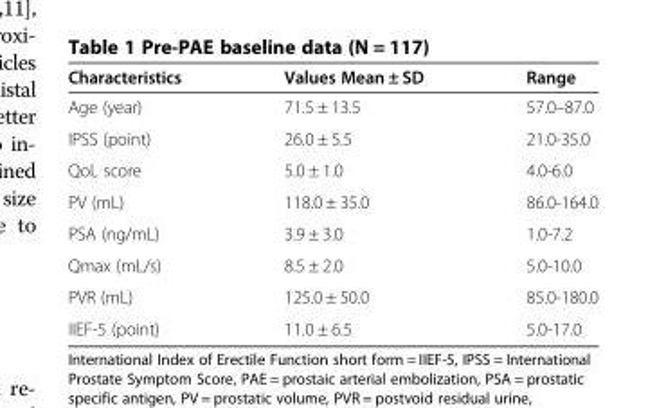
<table><thead><tr><td>Characteristics</td><td>Values Mean ± SD</td><td>Range</td></tr></thead><tbody><tr><td>Age (year)</td><td>71.5 ± 13.5</td><td>57.0–87.0</td></tr><tr><td>IPSS (point)</td><td>26.0 ± 5.5</td><td>21.0-35.0</td></tr><tr><td>QoL score</td><td>5.0 ± 1.0</td><td>4.0-6.0</td></tr><tr><td>PV (mL)</td><td>118.0 ± 35.0</td><td>86.0-164.0</td></tr><tr><td>PSA (ng/mL)</td><td>3.9 ± 3.0</td><td>1.0-7.2</td></tr><tr><td>Qmax (mL/s)</td><td>8.5 ± 2.0</td><td>5.0-10.0</td></tr><tr><td>PVR (mL)</td><td>125.0 ± 50.0</td><td>85.0-180.0</td></tr><tr><td>IIEF-5 (point)</td><td>11.0 ± 6.5</td><td>5.0-17.0</td></tr></tbody></table>